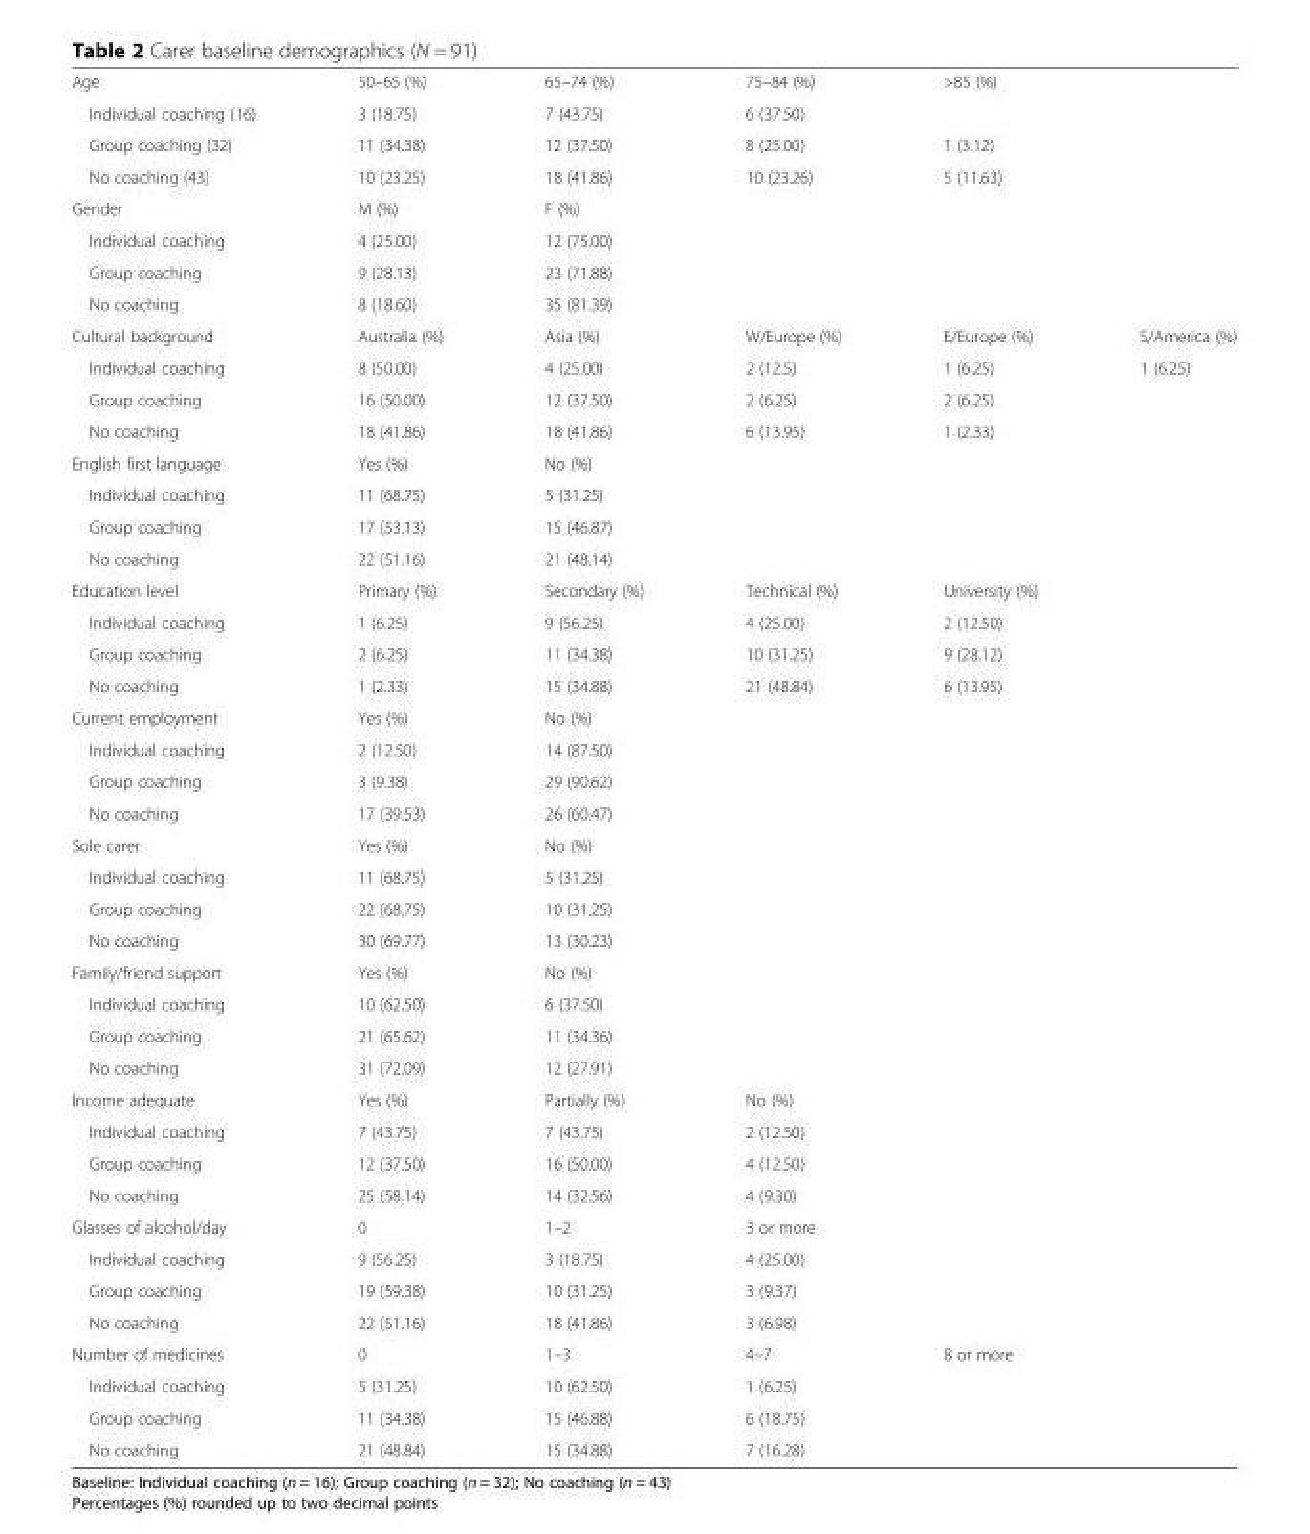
<table><tbody><tr><td>Age</td><td>50–65 (%)</td><td>65–74 (%)</td><td>75–84 (%)</td><td>&gt;85 (%)</td><td></td></tr><tr><td>Individual coaching (16)</td><td>3 (18.75)</td><td>7 (43.75)</td><td>6 (37.50)</td><td></td><td rowspan="3"></td></tr><tr><td>Group coaching (32)</td><td>11 (34.38)</td><td>12 (37.50)</td><td>8 (25.00)</td><td>1 (3.12)</td></tr><tr><td>No coaching (43)</td><td>10 (23.25)</td><td>18 (41.86)</td><td>10 (23.26)</td><td>5 (11.63)</td></tr><tr><td>Gender</td><td>M (%)</td><td>F (%)</td><td></td><td></td><td></td></tr><tr><td>Individual coaching</td><td>4 (25.00)</td><td>12 (75.00)</td><td rowspan="3"></td><td rowspan="3"></td><td rowspan="3"></td></tr><tr><td>Group coaching</td><td>9 (28.13)</td><td>23 (71.88)</td></tr><tr><td>No coaching</td><td>8 (18.60)</td><td>35 (81.39)</td></tr><tr><td>Cultural background</td><td>Australia (%)</td><td>Asia (%)</td><td>W/Europe (%)</td><td>E/Europe (%)</td><td>S/America (%)</td></tr><tr><td>Individual coaching</td><td>8 (50.00)</td><td>4 (25.00)</td><td>2 (12.5)</td><td>1 (6.25)</td><td rowspan="3">1 (6.25)</td></tr><tr><td>Group coaching</td><td>16 (50.00)</td><td>12 (37.50)</td><td>2 (6.25)</td><td>2 (6.25)</td></tr><tr><td>No coaching</td><td>18 (41.86)</td><td>18 (41.86)</td><td>6 (13.95)</td><td>1 (2.33)</td></tr><tr><td>English first language</td><td>Yes (%)</td><td>No (%)</td><td></td><td></td><td></td></tr><tr><td>Individual coaching</td><td>11 (68.75)</td><td>5 (31.25)</td><td rowspan="3"></td><td rowspan="3"></td><td rowspan="3"></td></tr><tr><td>Group coaching</td><td>17 (53.13)</td><td>15 (46.87)</td></tr><tr><td>No coaching</td><td>22 (51.16)</td><td>21 (48.14)</td></tr><tr><td>Education level</td><td>Primary (%)</td><td>Secondary (%)</td><td>Technical (%)</td><td>University (%)</td><td></td></tr><tr><td>Individual coaching</td><td>1 (6.25)</td><td>9 (56.25)</td><td>4 (25.00)</td><td>2 (12.50)</td><td rowspan="3"></td></tr><tr><td>Group coaching</td><td>2 (6.25)</td><td>11 (34.38)</td><td>10 (31.25)</td><td>9 (28.12)</td></tr><tr><td>No coaching</td><td>1 (2.33)</td><td>15 (34.88)</td><td>21 (48.84)</td><td>6 (13.95)</td></tr><tr><td>Current employment</td><td>Yes (%)</td><td>No (%)</td><td></td><td></td><td></td></tr><tr><td>Individual coaching</td><td>2 (12.50)</td><td>14 (87.50)</td><td rowspan="3"></td><td rowspan="3"></td><td rowspan="3"></td></tr><tr><td>Group coaching</td><td>3 (9.38)</td><td>29 (90.62)</td></tr><tr><td>No coaching</td><td>17 (39.53)</td><td>26 (60.47)</td></tr><tr><td>Sole carer</td><td>Yes (%)</td><td>No (%)</td><td></td><td></td><td></td></tr><tr><td>Individual coaching</td><td>11 (68.75)</td><td>5 (31.25)</td><td rowspan="3"></td><td rowspan="3"></td><td rowspan="3"></td></tr><tr><td>Group coaching</td><td>22 (68.75)</td><td>10 (31.25)</td></tr><tr><td>No coaching</td><td>30 (69.77)</td><td>13 (30.23)</td></tr><tr><td>Family/friend support</td><td>Yes (%)</td><td>No (%)</td><td></td><td></td><td></td></tr><tr><td>Individual coaching</td><td>10 (62.50)</td><td>6 (37.50)</td><td rowspan="3"></td><td rowspan="3"></td><td rowspan="3"></td></tr><tr><td>Group coaching</td><td>21 (65.62)</td><td>11 (34.36)</td></tr><tr><td>No coaching</td><td>31 (72.09)</td><td>12 (27.91)</td></tr><tr><td>Income adequate</td><td>Yes (%)</td><td>Partially (%)</td><td>No (%)</td><td></td><td></td></tr><tr><td>Individual coaching</td><td>7 (43.75)</td><td>7 (43.75)</td><td>2 (12.50)</td><td rowspan="3"></td><td rowspan="3"></td></tr><tr><td>Group coaching</td><td>12 (37.50)</td><td>16 (50.00)</td><td>4 (12.50)</td></tr><tr><td>No coaching</td><td>25 (58.14)</td><td>14 (32.56)</td><td>4 (9.30)</td></tr><tr><td>Glasses of alcohol/day</td><td>0</td><td>1–2</td><td>3 or more</td><td></td><td></td></tr><tr><td>Individual coaching</td><td>9 (56.25)</td><td>3 (18.75)</td><td>4 (25.00)</td><td rowspan="3"></td><td rowspan="3"></td></tr><tr><td>Group coaching</td><td>19 (59.38)</td><td>10 (31.25)</td><td>3 (9.37)</td></tr><tr><td>No coaching</td><td>22 (51.16)</td><td>18 (41.86)</td><td>3 (6.98)</td></tr><tr><td>Number of medicines</td><td>0</td><td>1–3</td><td>4–7</td><td>8 or more</td><td></td></tr><tr><td>Individual coaching</td><td>5 (31.25)</td><td>10 (62.50)</td><td>1 (6.25)</td><td rowspan="3"></td><td rowspan="3"></td></tr><tr><td>Group coaching</td><td>11 (34.38)</td><td>15 (46.88)</td><td>6 (18.75)</td></tr><tr><td>No coaching</td><td>21 (48.84)</td><td>15 (34.88)</td><td>7 (16.28)</td></tr></tbody></table>